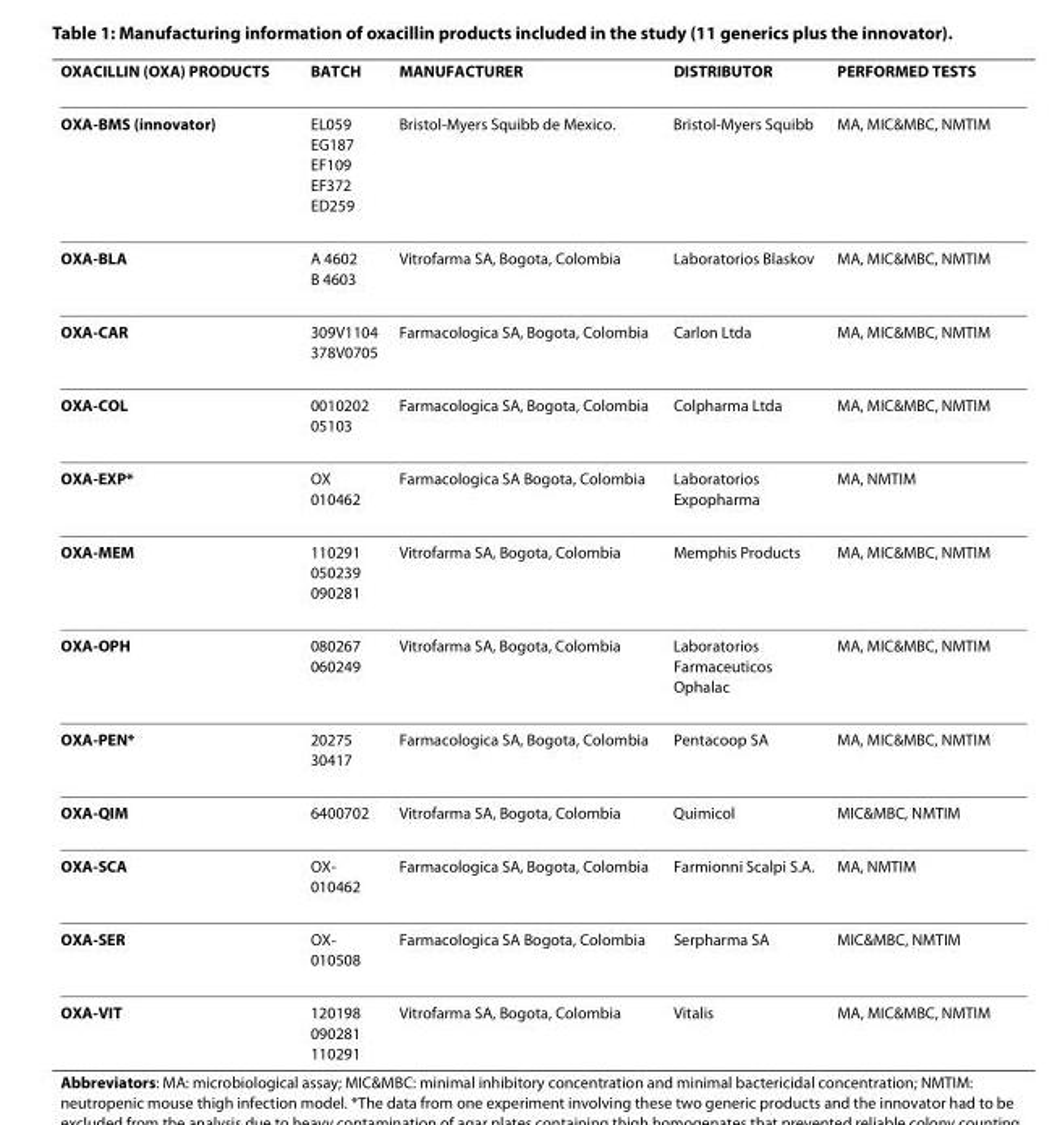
<table><thead><tr><td>OXACILLIN (OXA) PRODUCTS</td><td>BATCH</td><td>MANUFACTURER</td><td>DISTRIBUTOR</td><td>PERFORMED TESTS</td></tr></thead><tbody><tr><td>OXA-BMS (innovator)</td><td>EL059 EG187 EF109 EF372 ED259</td><td>Bristol-Myers Squibb de Mexico.</td><td>Bristol-Myers Squibb</td><td>MA, MIC&amp;MBC, NMTIM</td></tr><tr><td>OXA-BLA</td><td>A 4602 B 4603</td><td>Vitrofarma SA, Bogota, Colombia</td><td>Laboratorios Blaskov</td><td>MA, MIC&amp;MBC, NMTIM</td></tr><tr><td>OXA-CAR</td><td>309V1104 378V0705</td><td>Farmacologica SA, Bogota, Colombia</td><td>Carlon Ltda</td><td>MA, MIC&amp;MBC, NMTIM</td></tr><tr><td>OXA-COL</td><td>0010202 05103</td><td>Farmacologica SA, Bogota, Colombia</td><td>Colpharma Ltda</td><td>MA, MIC&amp;MBC, NMTIM</td></tr><tr><td>OXA-EXP*</td><td>OX 010462</td><td>Farmacologica SA Bogota, Colombia</td><td>Laboratorios Expopharma</td><td>MA, NMTIM</td></tr><tr><td>OXA-MEM</td><td>110291 050239 090281</td><td>Vitrofarma SA, Bogota, Colombia</td><td>Memphis Products</td><td>MA, MIC&amp;MBC, NMTIM</td></tr><tr><td>OXA-OPH</td><td>080267 060249</td><td>Vitrofarma SA, Bogota, Colombia</td><td>Laboratorios Farmaceuticos Ophalac</td><td>MA, MIC&amp;MBC, NMTIM</td></tr><tr><td>OXA-PEN*</td><td>20275 30417</td><td>Farmacologica SA, Bogota, Colombia</td><td>Pentacoop SA</td><td>MA, MIC&amp;MBC, NMTIM</td></tr><tr><td>OXA-QIM</td><td>6400702</td><td>Vitrofarma SA, Bogota, Colombia</td><td>Quimicol</td><td>MIC&amp;MBC, NMTIM</td></tr><tr><td>OXA-SCA</td><td>OX- 010462</td><td>Farmacologica SA, Bogota, Colombia</td><td>Farmionni Scalpi S.A.</td><td>MA, NMTIM</td></tr><tr><td>OXA-SER</td><td>OX- 010508</td><td>Farmacologica SA Bogota, Colombia</td><td>Serpharma SA</td><td>MIC&amp;MBC, NMTIM</td></tr><tr><td>OXA-VIT</td><td>120198 090281 110291</td><td>Vitrofarma SA, Bogota, Colombia</td><td>Vitalis</td><td>MA, MIC&amp;MBC, NMTIM</td></tr></tbody></table>